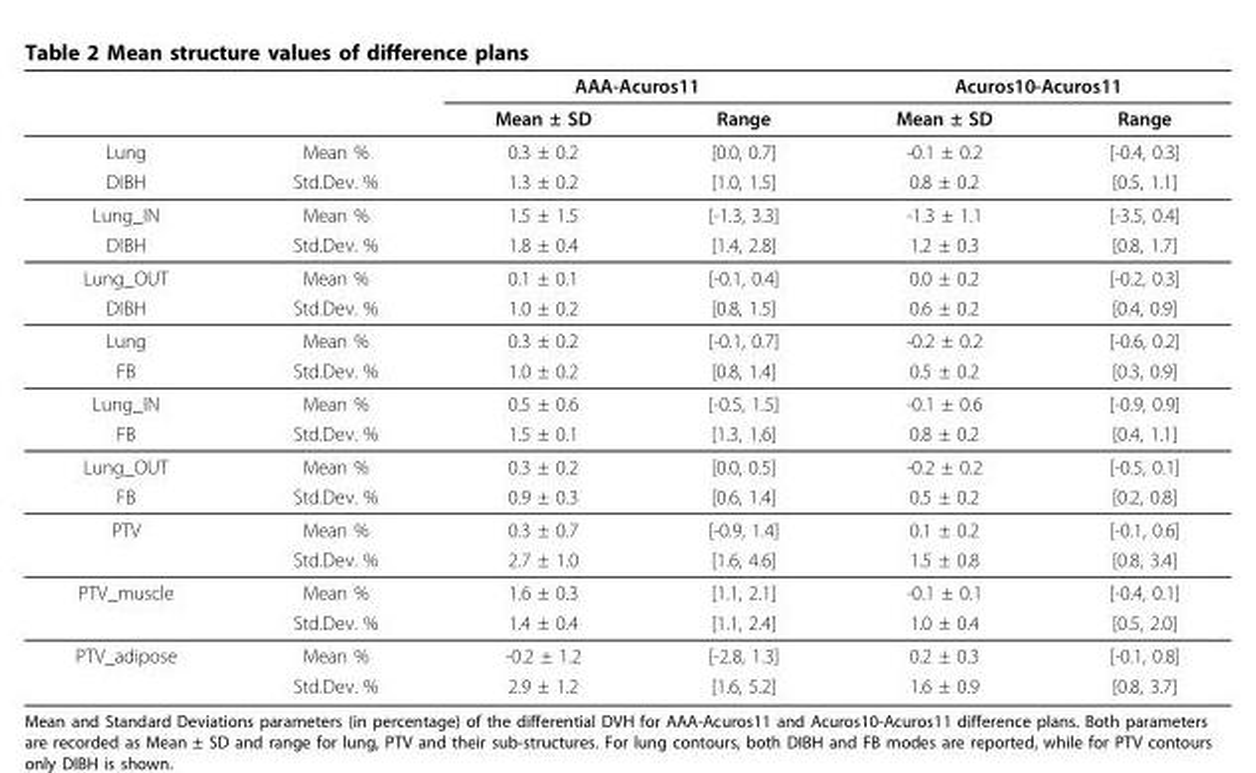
<table><thead><tr><td rowspan="2"></td><td rowspan="2"></td><td colspan="2">AAA-Acuros11</td><td colspan="2">Acuros10-Acuros11</td></tr><tr><td>Mean ± SD</td><td>Range</td><td>Mean ± SD</td><td>Range</td></tr></thead><tbody><tr><td>Lung</td><td>Mean %</td><td>0.3 ± 0.2</td><td>[0.0, 0.7]</td><td>-0.1 ± 0.2</td><td>[-0.4, 0.3]</td></tr><tr><td>DIBH</td><td>Std.Dev. %</td><td>1.3 ± 0.2</td><td>[1.0, 1.5]</td><td>0.8 ± 0.2</td><td>[0.5, 1.1]</td></tr><tr><td>Lung_IN</td><td>Mean %</td><td>1.5 ± 1.5</td><td>[-1.3, 3.3]</td><td>-1.3 ± 1.1</td><td>[-3.5, 0.4]</td></tr><tr><td>DIBH</td><td>Std.Dev. %</td><td>1.8 ± 0.4</td><td>[1.4, 2.8]</td><td>1.2 ± 0.3</td><td>[0.8, 1.7]</td></tr><tr><td>Lung_OUT</td><td>Mean %</td><td>0.1 ± 0.1</td><td>[-0.1, 0.4]</td><td>0.0 ± 0.2</td><td>[-0.2, 0.3]</td></tr><tr><td>DIBH</td><td>Std.Dev. %</td><td>1.0 ± 0.2</td><td>[0.8, 1.5]</td><td>0.6 ± 0.2</td><td>[0.4, 0.9]</td></tr><tr><td>Lung</td><td>Mean %</td><td>0.3 ± 0.2</td><td>[-0.1, 0.7]</td><td>-0.2 ± 0.2</td><td>[-0.6, 0.2]</td></tr><tr><td>FB</td><td>Std.Dev. %</td><td>1.0 ± 0.2</td><td>[0.8, 1.4]</td><td>0.5 ± 0.2</td><td>[0.3, 0.9]</td></tr><tr><td>Lung_IN</td><td>Mean %</td><td>0.5 ± 0.6</td><td>[-0.5, 1.5]</td><td>-0.1 ± 0.6</td><td>[-0.9, 0.9]</td></tr><tr><td>FB</td><td>Std.Dev. %</td><td>1.5 ± 0.1</td><td>[1.3, 1.6]</td><td>0.8 ± 0.2</td><td>[0.4, 1.1]</td></tr><tr><td>Lung_OUT</td><td>Mean %</td><td>0.3 ± 0.2</td><td>[0.0, 0.5]</td><td>-0.2 ± 0.2</td><td>[-0.5, 0.1]</td></tr><tr><td>FB</td><td>Std.Dev. %</td><td>0.9 ± 0.3</td><td>[0.6, 1.4]</td><td>0.5 ± 0.2</td><td>[0.2, 0.8]</td></tr><tr><td rowspan="2">PTV</td><td>Mean %</td><td>0.3 ± 0.7</td><td>[-0.9, 1.4]</td><td>0.1 ± 0.2</td><td>[-0.1, 0.6]</td></tr><tr><td>Std.Dev. %</td><td>2.7 ± 1.0</td><td>[1.6, 4.6]</td><td>1.5 ± 0.8</td><td>[0.8, 3.4]</td></tr><tr><td rowspan="2">PTV_muscle</td><td>Mean %</td><td>1.6 ± 0.3</td><td>[1.1, 2.1]</td><td>-0.1 ± 0.1</td><td>[-0.4, 0.1]</td></tr><tr><td>Std.Dev. %</td><td>1.4 ± 0.4</td><td>[1.1, 2.4]</td><td>1.0 ± 0.4</td><td>[0.5, 2.0]</td></tr><tr><td rowspan="2">PTV_adipose</td><td>Mean %</td><td>-0.2 ± 1.2</td><td>[-2.8, 1.3]</td><td>0.2 ± 0.3</td><td>[-0.1, 0.8]</td></tr><tr><td>Std.Dev. %</td><td>2.9 ± 1.2</td><td>[1.6, 5.2]</td><td>1.6 ± 0.9</td><td>[0.8, 3.7]</td></tr></tbody></table>